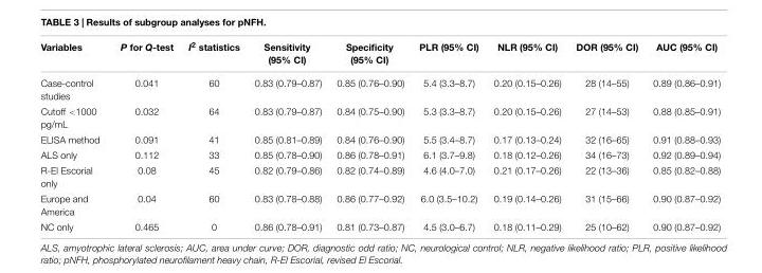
<table><thead><tr><td>Variables</td><td>P for Q-test</td><td>I<sup>2</sup> statistics</td><td>Sensitivity (95% CI)</td><td>Specificity (95% CI)</td><td>PLR (95% CI)</td><td>NLR (95% CI)</td><td>DOR (95% CI)</td><td>AUC (95% CI)</td></tr></thead><tbody><tr><td>Case-control studies</td><td>0.041</td><td>60</td><td>0.83 (0.79–0.87)</td><td>0.85 (0.76–0.90)</td><td>5.4 (3.3–8.7)</td><td>0.20 (0.15–0.26)</td><td>28 (14–55)</td><td>0.89 (0.86–0.91)</td></tr><tr><td>Cutoff &lt;1000 pg/mL</td><td>0.032</td><td>64</td><td>0.83 (0.79–0.87)</td><td>0.84 (0.75–0.90)</td><td>5.3 (3.3–8.7)</td><td>0.20 (0.15–0.26)</td><td>27 (14–53)</td><td>0.88 (0.85–0.91)</td></tr><tr><td>ELISA method</td><td>0.091</td><td>41</td><td>0.85 (0.81–0.89)</td><td>0.84 (0.76–0.90)</td><td>5.5 (3.4–8.7)</td><td>0.17 (0.13–0.24)</td><td>32 (16–65)</td><td>0.91 (0.88–0.93)</td></tr><tr><td>ALS only</td><td>0.112</td><td>33</td><td>0.85 (0.78–0.90)</td><td>0.86 (0.78–0.91)</td><td>6.1 (3.7–9.8)</td><td>0.18 (0.12–0.26)</td><td>34 (16–73)</td><td>0.92 (0.89–0.94)</td></tr><tr><td>R-El Escorial only</td><td>0.08</td><td>45</td><td>0.82 (0.79–0.86)</td><td>0.82 (0.74–0.89)</td><td>4.6 (4.0–7.0)</td><td>0.21 (0.17–0.26)</td><td>22 (13–36)</td><td>0.85 (0.82–0.88)</td></tr><tr><td>Europe and America</td><td>0.04</td><td>60</td><td>0.83 (0.78–0.88)</td><td>0.86 (0.77–0.92)</td><td>6.0 (3.5–10.2)</td><td>0.19 (0.14–0.26)</td><td>31 (15–66)</td><td>0.90 (0.87–0.92)</td></tr><tr><td>NC only</td><td>0.465</td><td>0</td><td>0.86 (0.78–0.91)</td><td>0.81 (0.73–0.87)</td><td>4.5 (3.0–6.7)</td><td>0.18 (0.11–0.29)</td><td>25 (10–62)</td><td>0.90 (0.87–0.92)</td></tr></tbody></table>